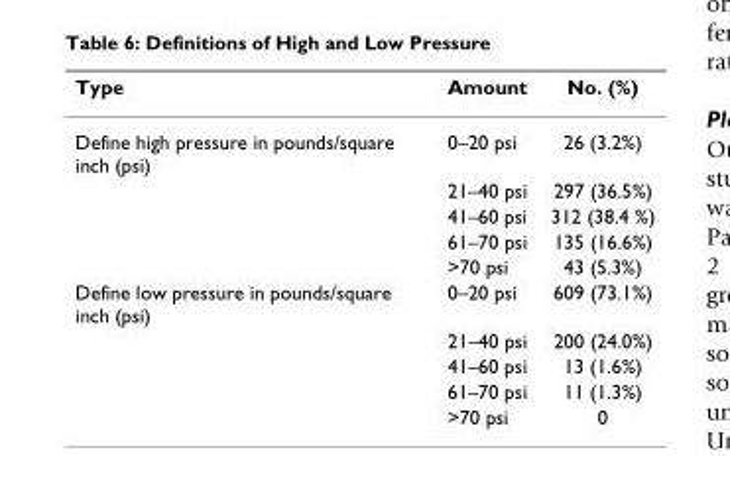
<table><thead><tr><td>Type</td><td>Amount</td><td>No. (%)</td></tr></thead><tbody><tr><td rowspan="5">Define high pressure in pounds/square inch (psi)</td><td>0–20 psi</td><td>26 (3.2%)</td></tr><tr><td>21–40 psi</td><td>297 (36.5%)</td></tr><tr><td>41–60 psi</td><td>312 (38.4 %)</td></tr><tr><td>61–70 psi</td><td>135 (16.6%)</td></tr><tr><td>&gt;70 psi</td><td>43 (5.3%)</td></tr><tr><td rowspan="5">Define low pressure in pounds/square inch (psi)</td><td>0–20 psi</td><td>609 (73.1%)</td></tr><tr><td>21–40 psi</td><td>200 (24.0%)</td></tr><tr><td>41–60 psi</td><td>13 (1.6%)</td></tr><tr><td>61–70 psi</td><td>11 (1.3%)</td></tr><tr><td>&gt;70 psi</td><td>0</td></tr></tbody></table>